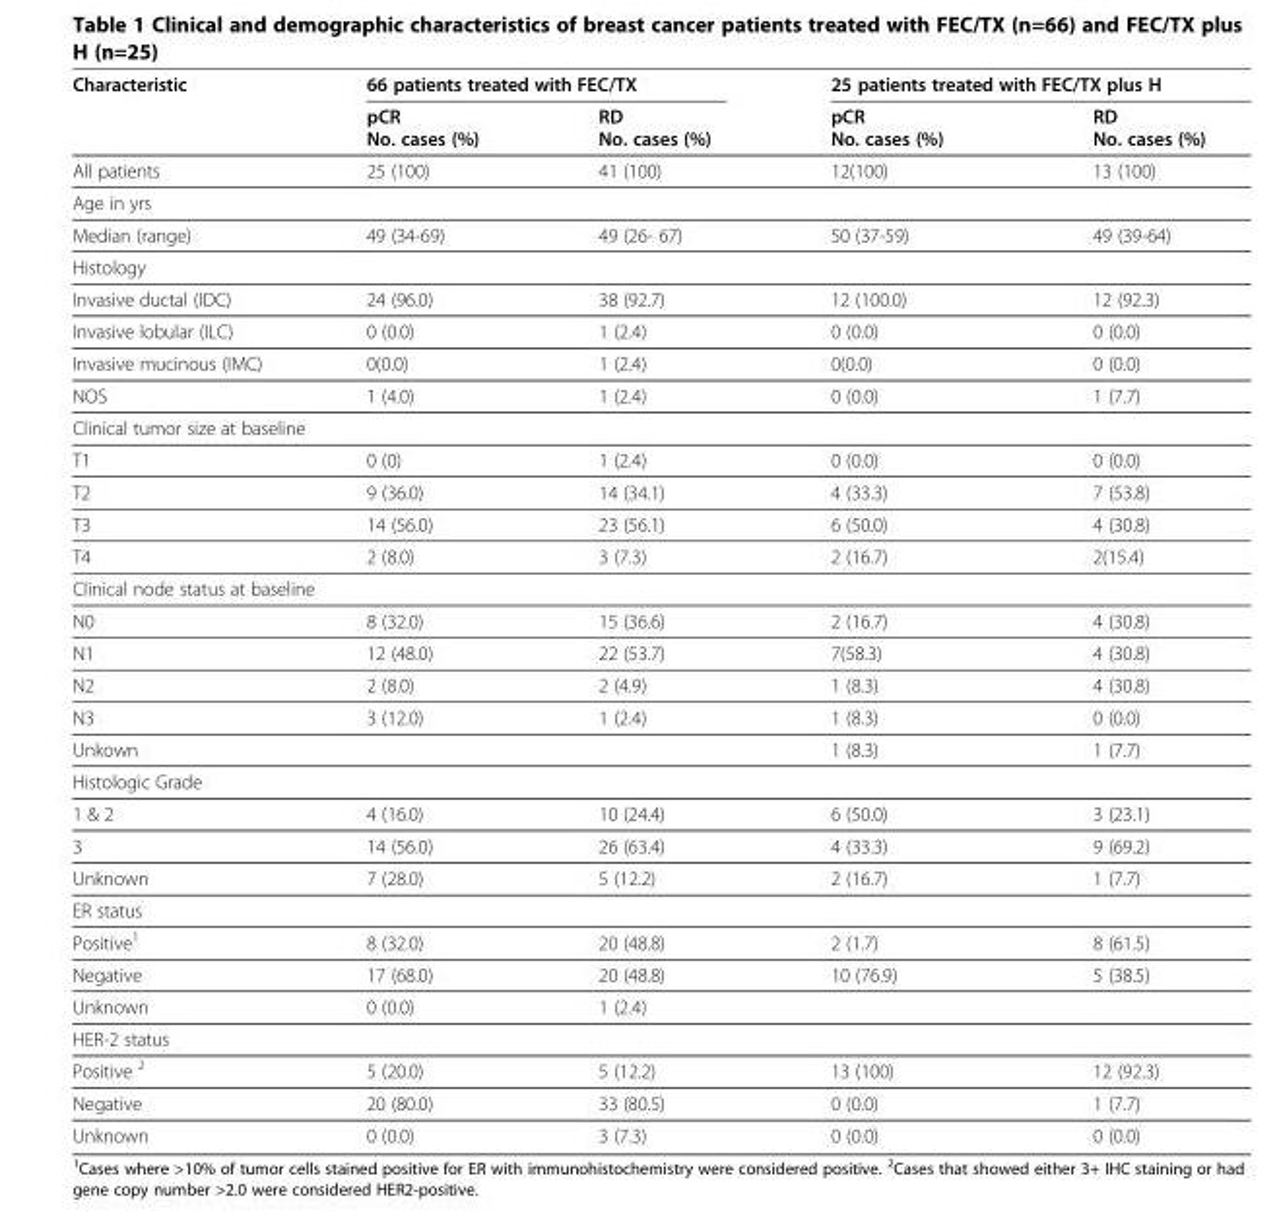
<table><thead><tr><td rowspan="2">Characteristic</td><td colspan="2">66 patients treated with FEC/TX</td><td colspan="2">25 patients treated with FEC/TX plus H</td></tr><tr><td>pCR No. cases (%)</td><td>RD No. cases (%)</td><td>pCR No. cases (%)</td><td>RD No. cases (%)</td></tr></thead><tbody><tr><td>All patients</td><td>25 (100)</td><td>41 (100)</td><td>12(100)</td><td>13 (100)</td></tr><tr><td colspan="5">Age in yrs</td></tr><tr><td>Median (range)</td><td>49 (34-69)</td><td>49 (26- 67)</td><td>50 (37-59)</td><td>49 (39-64)</td></tr><tr><td colspan="5">Histology</td></tr><tr><td>Invasive ductal (IDC)</td><td>24 (96.0)</td><td>38 (92.7)</td><td>12 (100.0)</td><td>12 (92.3)</td></tr><tr><td>Invasive lobular (ILC)</td><td>0 (0.0)</td><td>1 (2.4)</td><td>0 (0.0)</td><td>0 (0.0)</td></tr><tr><td>Invasive mucinous (IMC)</td><td>0(0.0)</td><td>1 (2.4)</td><td>0(0.0)</td><td>0 (0.0)</td></tr><tr><td>NOS</td><td>1 (4.0)</td><td>1 (2.4)</td><td>0 (0.0)</td><td>1 (7.7)</td></tr><tr><td colspan="5">Clinical tumor size at baseline</td></tr><tr><td>T1</td><td>0 (0)</td><td>1 (2.4)</td><td>0 (0.0)</td><td>0 (0.0)</td></tr><tr><td>T2</td><td>9 (36.0)</td><td>14 (34.1)</td><td>4 (33.3)</td><td>7 (53.8)</td></tr><tr><td>T3</td><td>14 (56.0)</td><td>23 (56.1)</td><td>6 (50.0)</td><td>4 (30.8)</td></tr><tr><td>T4</td><td>2 (8.0)</td><td>3 (7.3)</td><td>2 (16.7)</td><td>2(15.4)</td></tr><tr><td colspan="5">Clinical node status at baseline</td></tr><tr><td>N0</td><td>8 (32.0)</td><td>15 (36.6)</td><td>2 (16.7)</td><td>4 (30.8)</td></tr><tr><td>N1</td><td>12 (48.0)</td><td>22 (53.7)</td><td>7(58.3)</td><td>4 (30.8)</td></tr><tr><td>N2</td><td>2 (8.0)</td><td>2 (4.9)</td><td>1 (8.3)</td><td>4 (30.8)</td></tr><tr><td>N3</td><td>3 (12.0)</td><td>1 (2.4)</td><td>1 (8.3)</td><td>0 (0.0)</td></tr><tr><td>Unkown</td><td></td><td></td><td>1 (8.3)</td><td>1 (7.7)</td></tr><tr><td colspan="5">Histologic Grade</td></tr><tr><td>1 &amp; 2</td><td>4 (16.0)</td><td>10 (24.4)</td><td>6 (50.0)</td><td>3 (23.1)</td></tr><tr><td>3</td><td>14 (56.0)</td><td>26 (63.4)</td><td>4 (33.3)</td><td>9 (69.2)</td></tr><tr><td>Unknown</td><td>7 (28.0)</td><td>5 (12.2)</td><td>2 (16.7)</td><td>1 (7.7)</td></tr><tr><td colspan="5">ER status</td></tr><tr><td>Positive<sup>1</sup></td><td>8 (32.0)</td><td>20 (48.8)</td><td>2 (1.7)</td><td>8 (61.5)</td></tr><tr><td>Negative</td><td>17 (68.0)</td><td>20 (48.8)</td><td>10 (76.9)</td><td>5 (38.5)</td></tr><tr><td>Unknown</td><td>0 (0.0)</td><td>1 (2.4)</td><td></td><td></td></tr><tr><td colspan="5">HER-2 status</td></tr><tr><td>Positive <sup>2</sup></td><td>5 (20.0)</td><td>5 (12.2)</td><td>13 (100)</td><td>12 (92.3)</td></tr><tr><td>Negative</td><td>20 (80.0)</td><td>33 (80.5)</td><td>0 (0.0)</td><td>1 (7.7)</td></tr><tr><td>Unknown</td><td>0 (0.0)</td><td>3 (7.3)</td><td>0 (0.0)</td><td>0 (0.0)</td></tr></tbody></table>